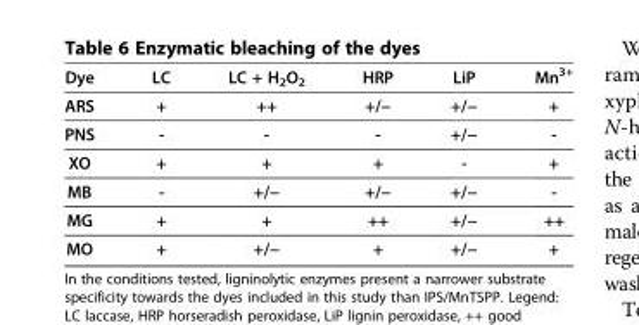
<table><thead><tr><td>Dye</td><td>LC</td><td>LC + H<sub>2</sub>O<sub>2</sub></td><td>HRP</td><td>LiP</td><td>Mn<sup>3+</sup></td></tr></thead><tbody><tr><td>ARS</td><td>+</td><td>++</td><td>+/−</td><td>+/−</td><td>+</td></tr><tr><td>PNS</td><td>-</td><td>-</td><td>-</td><td>+/−</td><td>-</td></tr><tr><td>XO</td><td>+</td><td>+</td><td>+</td><td>-</td><td>+</td></tr><tr><td>MB</td><td>-</td><td>+/−</td><td>+/−</td><td>+/−</td><td>-</td></tr><tr><td>MG</td><td>+</td><td>+</td><td>++</td><td>+/−</td><td>++</td></tr><tr><td>MO</td><td>+</td><td>+/−</td><td>+</td><td>+/−</td><td>+</td></tr></tbody></table>